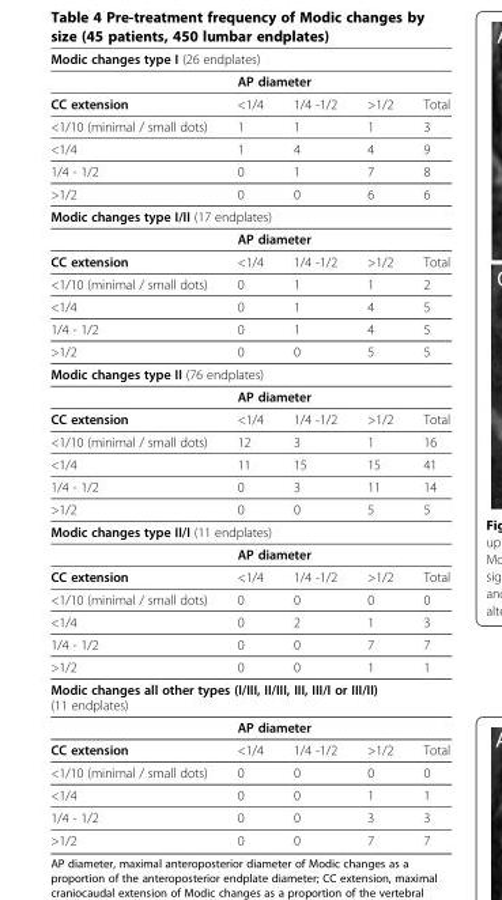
<table><thead><tr><td colspan="5">Modic changes type I (26 endplates)</td></tr><tr><td rowspan="2">CC extension</td><td colspan="4">AP diameter</td></tr><tr><td>&lt;1/4</td><td>1/4 -1/2</td><td>&gt;1/2</td><td>Total</td></tr></thead><tbody><tr><td>&lt;1/10 (minimal / small dots)</td><td>1</td><td>1</td><td>1</td><td>3</td></tr><tr><td>&lt;1/4</td><td>1</td><td>4</td><td>4</td><td>9</td></tr><tr><td>1/4 - 1/2</td><td>0</td><td>1</td><td>7</td><td>8</td></tr><tr><td>&gt;1/2</td><td>0</td><td>0</td><td>6</td><td>6</td></tr><tr><td colspan="5">Modic changes type I/II (17 endplates)</td></tr><tr><td></td><td colspan="4">AP diameter</td></tr><tr><td>CC extension</td><td>&lt;1/4</td><td>1/4 -1/2</td><td>&gt;1/2</td><td>Total</td></tr><tr><td>&lt;1/10 (minimal / small dots)</td><td>0</td><td>1</td><td>1</td><td>2</td></tr><tr><td>&lt;1/4</td><td>0</td><td>1</td><td>4</td><td>5</td></tr><tr><td>1/4 - 1/2</td><td>0</td><td>1</td><td>4</td><td>5</td></tr><tr><td>&gt;1/2</td><td>0</td><td>0</td><td>5</td><td>5</td></tr><tr><td colspan="5">Modic changes type II (76 endplates)</td></tr><tr><td></td><td colspan="4">AP diameter</td></tr><tr><td>CC extension</td><td>&lt;1/4</td><td>1/4 -1/2</td><td>&gt;1/2</td><td>Total</td></tr><tr><td>&lt;1/10 (minimal / small dots)</td><td>12</td><td>3</td><td>1</td><td>16</td></tr><tr><td>&lt;1/4</td><td>11</td><td>15</td><td>15</td><td>41</td></tr><tr><td>1/4 - 1/2</td><td>0</td><td>3</td><td>11</td><td>14</td></tr><tr><td>&gt;1/2</td><td>0</td><td>0</td><td>5</td><td>5</td></tr><tr><td colspan="5">Modic changes type II/I (11 endplates)</td></tr><tr><td></td><td colspan="4">AP diameter</td></tr><tr><td>CC extension</td><td>&lt;1/4</td><td>1/4 -1/2</td><td>&gt;1/2</td><td>Total</td></tr><tr><td>&lt;1/10 (minimal / small dots)</td><td>0</td><td>0</td><td>0</td><td>0</td></tr><tr><td>&lt;1/4</td><td>0</td><td>2</td><td>1</td><td>3</td></tr><tr><td>1/4 - 1/2</td><td>0</td><td>0</td><td>7</td><td>7</td></tr><tr><td>&gt;1/2</td><td>0</td><td>0</td><td>1</td><td>1</td></tr><tr><td colspan="5">Modic changes all other types (I/III, II/III, III, III/I or III/II) (11 endplates)</td></tr><tr><td></td><td colspan="4">AP diameter</td></tr><tr><td>CC extension</td><td>&lt;1/4</td><td>1/4 -1/2</td><td>&gt;1/2</td><td>Total</td></tr><tr><td>&lt;1/10 (minimal / small dots)</td><td>0</td><td>0</td><td>0</td><td>0</td></tr><tr><td>&lt;1/4</td><td>0</td><td>0</td><td>1</td><td>1</td></tr><tr><td>1/4 - 1/2</td><td>0</td><td>0</td><td>3</td><td>3</td></tr><tr><td>&gt;1/2</td><td>0</td><td>0</td><td>7</td><td>7</td></tr></tbody></table>